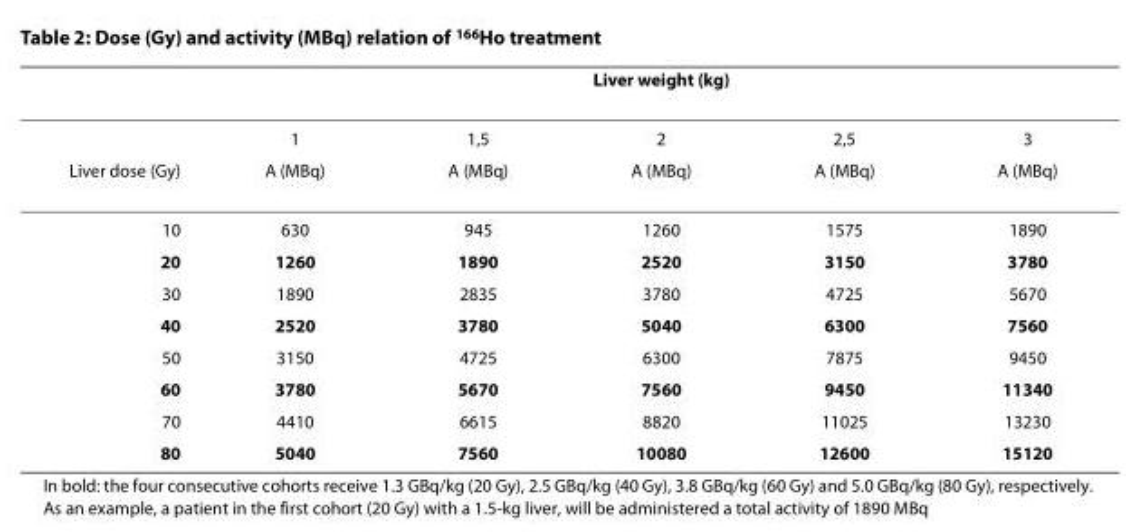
<table><thead><tr><td rowspan="2"></td><td colspan="5">Liver weight (kg)</td></tr><tr><td>1</td><td>1,5</td><td>2</td><td>2,5</td><td>3</td></tr></thead><tbody><tr><td>Liver dose (Gy)</td><td>A (MBq)</td><td>A (MBq)</td><td>A (MBq)</td><td>A (MBq)</td><td>A (MBq)</td></tr><tr><td>10</td><td>630</td><td>945</td><td>1260</td><td>1575</td><td>1890</td></tr><tr><td>20</td><td>1260</td><td>1890</td><td>2520</td><td>3150</td><td>3780</td></tr><tr><td>30</td><td>1890</td><td>2835</td><td>3780</td><td>4725</td><td>5670</td></tr><tr><td>40</td><td>2520</td><td>3780</td><td>5040</td><td>6300</td><td>7560</td></tr><tr><td>50</td><td>3150</td><td>4725</td><td>6300</td><td>7875</td><td>9450</td></tr><tr><td>60</td><td>3780</td><td>5670</td><td>7560</td><td>9450</td><td>11340</td></tr><tr><td>70</td><td>4410</td><td>6615</td><td>8820</td><td>11025</td><td>13230</td></tr><tr><td>80</td><td>5040</td><td>7560</td><td>10080</td><td>12600</td><td>15120</td></tr></tbody></table>